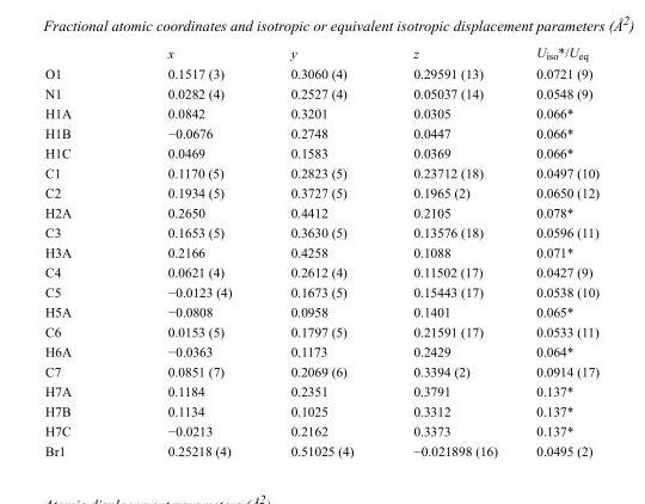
<table><thead><tr><td></td><td>x</td><td>y</td><td>z</td><td>U<sub>iso</sub>*/U<sub>eq</sub></td></tr></thead><tbody><tr><td>O1</td><td>0.1517 (3)</td><td>0.3060 (4)</td><td>0.29591 (13)</td><td>0.0721 (9)</td></tr><tr><td>N1</td><td>0.0282 (4)</td><td>0.2527 (4)</td><td>0.05037 (14)</td><td>0.0548 (9)</td></tr><tr><td>H1A</td><td>0.0842</td><td>0.3201</td><td>0.0305</td><td>0.066*</td></tr><tr><td>H1B</td><td>−0.0676</td><td>0.2748</td><td>0.0447</td><td>0.066*</td></tr><tr><td>H1C</td><td>0.0469</td><td>0.1583</td><td>0.0369</td><td>0.066*</td></tr><tr><td>C1</td><td>0.1170 (5)</td><td>0.2823 (5)</td><td>0.23712 (18)</td><td>0.0497 (10)</td></tr><tr><td>C2</td><td>0.1934 (5)</td><td>0.3727 (5)</td><td>0.1965 (2)</td><td>0.0650 (12)</td></tr><tr><td>H2A</td><td>0.2650</td><td>0.4412</td><td>0.2105</td><td>0.078*</td></tr><tr><td>C3</td><td>0.1653 (5)</td><td>0.3630 (5)</td><td>0.13576 (18)</td><td>0.0596 (11)</td></tr><tr><td>H3A</td><td>0.2166</td><td>0.4258</td><td>0.1088</td><td>0.071*</td></tr><tr><td>C4</td><td>0.0621 (4)</td><td>0.2612 (4)</td><td>0.11502 (17)</td><td>0.0427 (9)</td></tr><tr><td>C5</td><td>−0.0123 (4)</td><td>0.1673 (5)</td><td>0.15443 (17)</td><td>0.0538 (10)</td></tr><tr><td>H5A</td><td>−0.0808</td><td>0.0958</td><td>0.1401</td><td>0.065*</td></tr><tr><td>C6</td><td>0.0153 (5)</td><td>0.1797 (5)</td><td>0.21591 (17)</td><td>0.0533 (11)</td></tr><tr><td>H6A</td><td>−0.0363</td><td>0.1173</td><td>0.2429</td><td>0.064*</td></tr><tr><td>C7</td><td>0.0851 (7)</td><td>0.2069 (6)</td><td>0.3394 (2)</td><td>0.0914 (17)</td></tr><tr><td>H7A</td><td>0.1184</td><td>0.2351</td><td>0.3791</td><td>0.137*</td></tr><tr><td>H7B</td><td>0.1134</td><td>0.1025</td><td>0.3312</td><td>0.137*</td></tr><tr><td>H7C</td><td>−0.0213</td><td>0.2162</td><td>0.3373</td><td>0.137*</td></tr><tr><td>Br1</td><td>0.25218 (4)</td><td>0.51025 (4)</td><td>−0.021898 (16)</td><td>0.0495 (2)</td></tr></tbody></table>